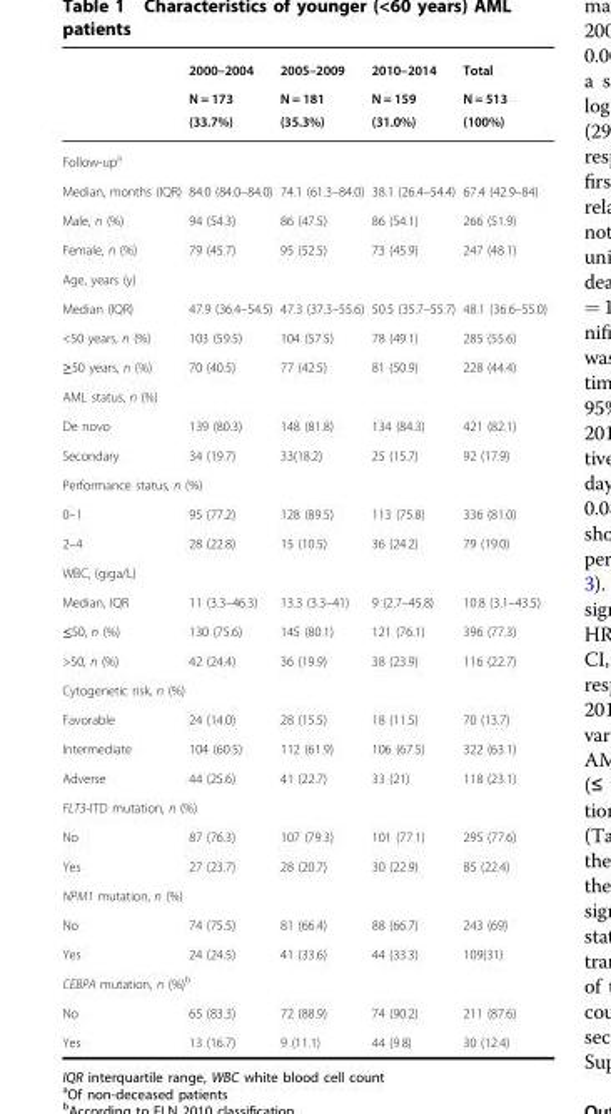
<table><thead><tr><td rowspan="2"></td><td rowspan="2">2000–2004 N = 173 (33.7%)</td><td rowspan="2">2005–2009 N = 181 (35.3%)</td><td rowspan="2">2010–2014 N = 159 (31.0%)</td><td rowspan="2">Total N = 513 (100%)</td></tr><tr></tr></thead><tbody><tr><td colspan="5">Follow-up<sup>a</sup></td></tr><tr><td>Median, months (IQR)</td><td>84.0 (84.0–84.0)</td><td>74.1 (61.3–84.0)</td><td>38.1 (26.4–54.4)</td><td>67.4 (42.9–84)</td></tr><tr><td>Male, n (%)</td><td>94 (54.3)</td><td>86 (47.5)</td><td>86 (54.1)</td><td>266 (51.9)</td></tr><tr><td>Female, n (%)</td><td>79 (45.7)</td><td>95 (52.5)</td><td>73 (45.9)</td><td>247 (48.1)</td></tr><tr><td colspan="5">Age, years (y)</td></tr><tr><td>Median (IQR)</td><td>47.9 (36.4–54.5)</td><td>47.3 (37.3–55.6)</td><td>50.5 (35.7–55.7)</td><td>48.1 (36.6–55.0)</td></tr><tr><td>&lt;50 years, n (%)</td><td>103 (59.5)</td><td>104 (57.5)</td><td>78 (49.1)</td><td>285 (55.6)</td></tr><tr><td>≥50 years, n (%)</td><td>70 (40.5)</td><td>77 (42.5)</td><td>81 (50.9)</td><td>228 (44.4)</td></tr><tr><td colspan="5">AML status, n (%)</td></tr><tr><td>De novo</td><td>139 (80.3)</td><td>148 (81.8)</td><td>134 (84.3)</td><td>421 (82.1)</td></tr><tr><td>Secondary</td><td>34 (19.7)</td><td>33(18.2)</td><td>25 (15.7)</td><td>92 (17.9)</td></tr><tr><td colspan="5">Performance status, n (%)</td></tr><tr><td>0–1</td><td>95 (77.2)</td><td>128 (89.5)</td><td>113 (75.8)</td><td>336 (81.0)</td></tr><tr><td>2–4</td><td>28 (22.8)</td><td>15 (10.5)</td><td>36 (24.2)</td><td>79 (19.0)</td></tr><tr><td colspan="5">WBC, (giga/L)</td></tr><tr><td>Median, IQR</td><td>11 (3.3–46.3)</td><td>13.3 (3.3–41)</td><td>9 (2.7–45.8)</td><td>10.8 (3.1–43.5)</td></tr><tr><td>≤50, n (%)</td><td>130 (75.6)</td><td>145 (80.1)</td><td>121 (76.1)</td><td>396 (77.3)</td></tr><tr><td>&gt;50, n (%)</td><td>42 (24.4)</td><td>36 (19.9)</td><td>38 (23.9)</td><td>116 (22.7)</td></tr><tr><td colspan="5">Cytogenetic risk, n (%)</td></tr><tr><td>Favorable</td><td>24 (14.0)</td><td>28 (15.5)</td><td>18 (11.5)</td><td>70 (13.7)</td></tr><tr><td>Intermediate</td><td>104 (60.5)</td><td>112 (61.9)</td><td>106 (67.5)</td><td>322 (63.1)</td></tr><tr><td>Adverse</td><td>44 (25.6)</td><td>41 (22.7)</td><td>33 (21)</td><td>118 (23.1)</td></tr><tr><td colspan="5">FLT3-ITD mutation, n (%)</td></tr><tr><td>No</td><td>87 (76.3)</td><td>107 (79.3)</td><td>101 (77.1)</td><td>295 (77.6)</td></tr><tr><td>Yes</td><td>27 (23.7)</td><td>28 (20.7)</td><td>30 (22.9)</td><td>85 (22.4)</td></tr><tr><td colspan="5">NPM1 mutation, n (%)</td></tr><tr><td>No</td><td>74 (75.5)</td><td>81 (66.4)</td><td>88 (66.7)</td><td>243 (69)</td></tr><tr><td>Yes</td><td>24 (24.5)</td><td>41 (33.6)</td><td>44 (33.3)</td><td>109(31)</td></tr><tr><td colspan="5">CEBPA mutation, n (%)<sup>b</sup></td></tr><tr><td>No</td><td>65 (83.3)</td><td>72 (88.9)</td><td>74 (90.2)</td><td>211 (87.6)</td></tr><tr><td>Yes</td><td>13 (16.7)</td><td>9 (11.1)</td><td>44 (9.8)</td><td>30 (12.4)</td></tr></tbody></table>